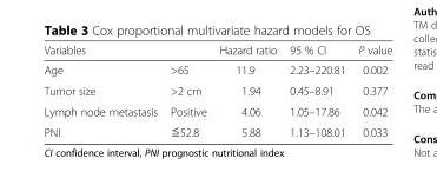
<table><thead><tr><td>Variables</td><td></td><td>Hazard ratio</td><td>95 % CI</td><td>P value</td></tr></thead><tbody><tr><td>Age</td><td>&gt;65</td><td>11.9</td><td>2.23–220.81</td><td>0.002</td></tr><tr><td>Tumor size</td><td>&gt;2 cm</td><td>1.94</td><td>0.45–8.91</td><td>0.377</td></tr><tr><td>Lymph node metastasis</td><td>Positive</td><td>4.06</td><td>1.05–17.86</td><td>0.042</td></tr><tr><td>PNI</td><td>≦52.8</td><td>5.88</td><td>1.13–108.01</td><td>0.033</td></tr></tbody></table>